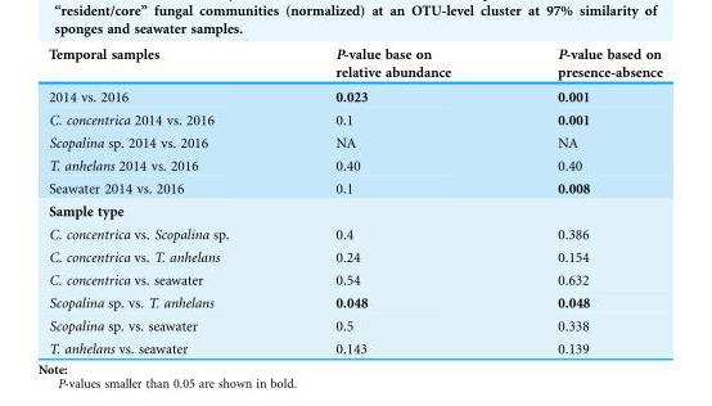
<table><thead><tr><td>Temporal samples</td><td>P-value base on relative abundance</td><td>P-value based on presence-absence</td></tr></thead><tbody><tr><td>2014 vs. 2016</td><td>0.023</td><td>0.001</td></tr><tr><td>C. concentrica 2014 vs. 2016</td><td>0.1</td><td>0.001</td></tr><tr><td>Scopalina sp. 2014 vs. 2016</td><td>NA</td><td>NA</td></tr><tr><td>T. anhelans 2014 vs. 2016</td><td>0.40</td><td>0.40</td></tr><tr><td>Seawater 2014 vs. 2016</td><td>0.1</td><td>0.008</td></tr><tr><td colspan="3">Sample type</td></tr><tr><td>C. concentrica vs. Scopalina sp.</td><td>0.4</td><td>0.386</td></tr><tr><td>C. concentrica vs. T. anhelans</td><td>0.24</td><td>0.154</td></tr><tr><td>C. concentrica vs. seawater</td><td>0.54</td><td>0.632</td></tr><tr><td>Scopalina sp. vs. T. anhelans</td><td>0.048</td><td>0.048</td></tr><tr><td>Scopalina sp. vs. seawater</td><td>0.5</td><td>0.338</td></tr><tr><td>T. anhelans vs. seawater</td><td>0.143</td><td>0.139</td></tr></tbody></table>